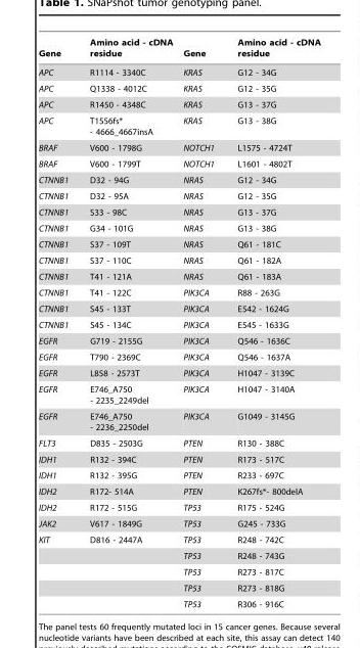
<table><thead><tr><td>Gene</td><td>Amino acid - cDNA residue</td><td>Gene</td><td>Amino acid - cDNA residue</td></tr></thead><tbody><tr><td>APC</td><td>R1114 - 3340C</td><td>KRAS</td><td>G12 - 34G</td></tr><tr><td>APC</td><td>Q1338 - 4012C</td><td>KRAS</td><td>G12 - 35G</td></tr><tr><td>APC</td><td>R1450 - 4348C</td><td>KRAS</td><td>G13 - 37G</td></tr><tr><td>APC</td><td>T1556fs* - 4666_4667insA</td><td>KRAS</td><td>G13 - 38G</td></tr><tr><td>BRAF</td><td>V600 - 1798G</td><td>NOTCH1</td><td>L1575 - 4724T</td></tr><tr><td>BRAF</td><td>V600 - 1799T</td><td>NOTCH1</td><td>L1601 - 4802T</td></tr><tr><td>CTNNB1</td><td>D32 - 94G</td><td>NRAS</td><td>G12 - 34G</td></tr><tr><td>CTNNB1</td><td>D32 - 95A</td><td>NRAS</td><td>G12 - 35G</td></tr><tr><td>CTNNB1</td><td>S33 - 98C</td><td>NRAS</td><td>G13 - 37G</td></tr><tr><td>CTNNB1</td><td>G34 - 101G</td><td>NRAS</td><td>G13 - 38G</td></tr><tr><td>CTNNB1</td><td>S37 - 109T</td><td>NRAS</td><td>Q61 - 181C</td></tr><tr><td>CTNNB1</td><td>S37 - 110C</td><td>NRAS</td><td>Q61 - 182A</td></tr><tr><td>CTNNB1</td><td>T41 - 121A</td><td>NRAS</td><td>Q61 - 183A</td></tr><tr><td>CTNNB1</td><td>T41 - 122C</td><td>PIK3CA</td><td>R88 - 263G</td></tr><tr><td>CTNNB1</td><td>S45 - 133T</td><td>PIK3CA</td><td>E542 - 1624G</td></tr><tr><td>CTNNB1</td><td>S45 - 134C</td><td>PIK3CA</td><td>E545 - 1633G</td></tr><tr><td>EGFR</td><td>G719 - 2155G</td><td>PIK3CA</td><td>Q546 - 1636C</td></tr><tr><td>EGFR</td><td>T790 - 2369C</td><td>PIK3CA</td><td>Q546 - 1637A</td></tr><tr><td>EGFR</td><td>L858 - 2573T</td><td>PIK3CA</td><td>H1047 - 3139C</td></tr><tr><td>EGFR</td><td>E746_A750 - 2235_2249del</td><td>PIK3CA</td><td>H1047 - 3140A</td></tr><tr><td>EGFR</td><td>E746_A750 - 2236_2250del</td><td>PIK3CA</td><td>G1049 - 3145G</td></tr><tr><td>FLT3</td><td>D835 - 2503G</td><td>PTEN</td><td>R130 - 388C</td></tr><tr><td>IDH1</td><td>R132 - 394C</td><td>PTEN</td><td>R173 - 517C</td></tr><tr><td>IDH1</td><td>R132 - 395G</td><td>PTEN</td><td>R233 - 697C</td></tr><tr><td>IDH2</td><td>R172- 514A</td><td>PTEN</td><td>K267fs*- 800delA</td></tr><tr><td>IDH2</td><td>R172 - 515G</td><td>TP53</td><td>R175 - 524G</td></tr><tr><td>JAK2</td><td>V617 - 1849G</td><td>TP53</td><td>G245 - 733G</td></tr><tr><td rowspan="5">KIT</td><td>D816 - 2447A</td><td>TP53</td><td>R248 - 742C</td></tr><tr><td></td><td>TP53</td><td>R248 - 743G</td></tr><tr><td></td><td>TP53</td><td>R273 - 817C</td></tr><tr><td></td><td>TP53</td><td>R273 - 818G</td></tr><tr><td></td><td>TP53</td><td>R306 - 916C</td></tr></tbody></table>